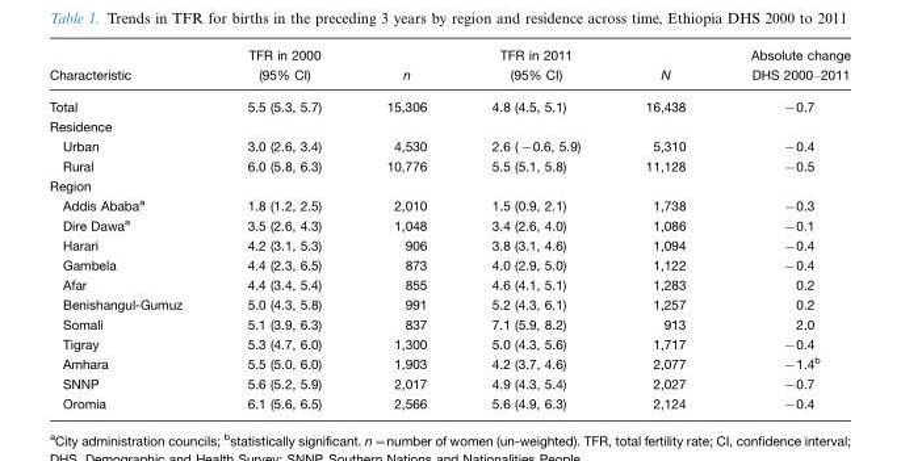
<table><thead><tr><td>Characteristic</td><td>TFR in 2000 (95% CI)</td><td>n</td><td>TFR in 2011 (95% CI)</td><td>N</td><td>Absolute change DHS 2000–2011</td></tr></thead><tbody><tr><td>Total</td><td>5.5 (5.3, 5.7)</td><td>15,306</td><td>4.8 (4.5, 5.1)</td><td>16,438</td><td>−0.7</td></tr><tr><td colspan="6">Residence</td></tr><tr><td>Urban</td><td>3.0 (2.6, 3.4)</td><td>4,530</td><td>2.6 (−0.6, 5.9)</td><td>5,310</td><td>−0.4</td></tr><tr><td>Rural</td><td>6.0 (5.8, 6.3)</td><td>10,776</td><td>5.5 (5.1, 5.8)</td><td>11,128</td><td>−0.5</td></tr><tr><td colspan="6">Region</td></tr><tr><td>Addis Ababa<sup>a</sup></td><td>1.8 (1.2, 2.5)</td><td>2,010</td><td>1.5 (0.9, 2.1)</td><td>1,738</td><td>−0.3</td></tr><tr><td>Dire Dawa<sup>a</sup></td><td>3.5 (2.6, 4.3)</td><td>1,048</td><td>3.4 (2.6, 4.0)</td><td>1,086</td><td>−0.1</td></tr><tr><td>Harari</td><td>4.2 (3.1, 5.3)</td><td>906</td><td>3.8 (3.1, 4.6)</td><td>1,094</td><td>−0.4</td></tr><tr><td>Gambela</td><td>4.4 (2.3, 6.5)</td><td>873</td><td>4.0 (2.9, 5.0)</td><td>1,122</td><td>−0.4</td></tr><tr><td>Afar</td><td>4.4 (3.4, 5.4)</td><td>855</td><td>4.6 (4.1, 5.1)</td><td>1,283</td><td>0.2</td></tr><tr><td>Benishangul-Gumuz</td><td>5.0 (4.3, 5.8)</td><td>991</td><td>5.2 (4.3, 6.1)</td><td>1,257</td><td>0.2</td></tr><tr><td>Somali</td><td>5.1 (3.9, 6.3)</td><td>837</td><td>7.1 (5.9, 8.2)</td><td>913</td><td>2.0</td></tr><tr><td>Tigray</td><td>5.3 (4.7, 6.0)</td><td>1,300</td><td>5.0 (4.3, 5.6)</td><td>1,717</td><td>−0.4</td></tr><tr><td>Amhara</td><td>5.5 (5.0, 6.0)</td><td>1,903</td><td>4.2 (3.7, 4.6)</td><td>2,077</td><td>−1.4<sup>b</sup></td></tr><tr><td>SNNP</td><td>5.6 (5.2, 5.9)</td><td>2,017</td><td>4.9 (4.3, 5.4)</td><td>2,027</td><td>−0.7</td></tr><tr><td>Oromia</td><td>6.1 (5.6, 6.5)</td><td>2,566</td><td>5.6 (4.9, 6.3)</td><td>2,124</td><td>−0.4</td></tr></tbody></table>